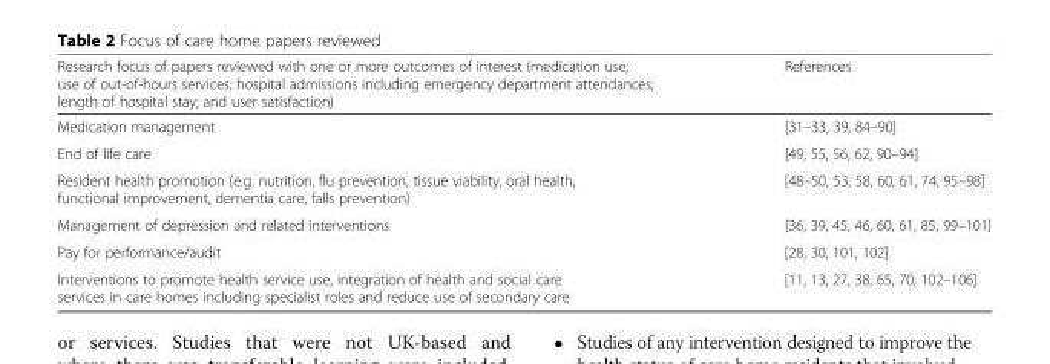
<table><thead><tr><td>Research focus of papers reviewed with one or more outcomes of interest (medication use; use of out-of-hours services; hospital admissions including emergency department attendances; length of hospital stay; and user satisfaction)</td><td>References</td></tr></thead><tbody><tr><td>Medication management</td><td>[31–33, 39, 84–90]</td></tr><tr><td>End of life care</td><td>[49, 55, 56, 62, 90–94]</td></tr><tr><td>Resident health promotion (e.g. nutrition, flu prevention, tissue viability, oral health, functional improvement, dementia care, falls prevention)</td><td>[48–50, 53, 58, 60, 61, 74, 95–98]</td></tr><tr><td>Management of depression and related interventions</td><td>[36, 39, 45, 46, 60, 61, 85, 99–101]</td></tr><tr><td>Pay for performance/audit</td><td>[28, 30, 101, 102]</td></tr><tr><td>Interventions to promote health service use, integration of health and social care services in care homes including specialist roles and reduce use of secondary care</td><td>[11, 13, 27, 38, 65, 70, 102–106]</td></tr></tbody></table>